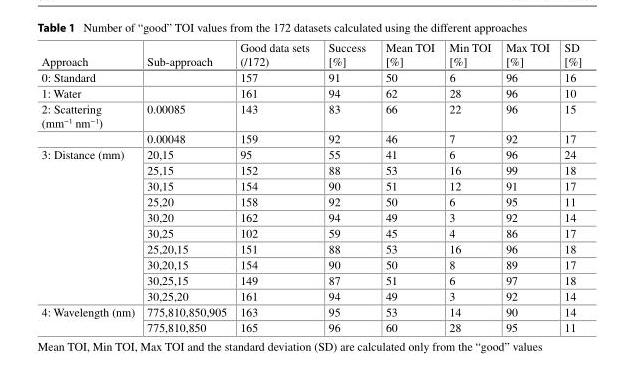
<table><thead><tr><td>Approach</td><td>Sub-approach</td><td>Good data sets (/172)</td><td>Success [%]</td><td>Mean TOI [%]</td><td>Min TOI [%]</td><td>Max TOI [%]</td><td>SD [%]</td></tr></thead><tbody><tr><td>0: Standard</td><td></td><td>157</td><td>91</td><td>50</td><td>6</td><td>96</td><td>16</td></tr><tr><td>1: Water</td><td></td><td>161</td><td>94</td><td>62</td><td>28</td><td>96</td><td>10</td></tr><tr><td rowspan="2">2: Scattering (mm<sup>−1</sup> nm<sup>−1</sup>)</td><td>0.00085</td><td>143</td><td>83</td><td>66</td><td>22</td><td>96</td><td>15</td></tr><tr><td>0.00048</td><td>159</td><td>92</td><td>46</td><td>7</td><td>92</td><td>17</td></tr><tr><td rowspan="10">3: Distance (mm)</td><td>20,15</td><td>95</td><td>55</td><td>41</td><td>6</td><td>96</td><td>24</td></tr><tr><td>25,15</td><td>152</td><td>88</td><td>53</td><td>16</td><td>99</td><td>18</td></tr><tr><td>30,15</td><td>154</td><td>90</td><td>51</td><td>12</td><td>91</td><td>17</td></tr><tr><td>25,20</td><td>158</td><td>92</td><td>50</td><td>6</td><td>95</td><td>11</td></tr><tr><td>30,20</td><td>162</td><td>94</td><td>49</td><td>3</td><td>92</td><td>14</td></tr><tr><td>30,25</td><td>102</td><td>59</td><td>45</td><td>4</td><td>86</td><td>17</td></tr><tr><td>25,20,15</td><td>151</td><td>88</td><td>53</td><td>16</td><td>96</td><td>18</td></tr><tr><td>30,20,15</td><td>154</td><td>90</td><td>50</td><td>8</td><td>89</td><td>17</td></tr><tr><td>30,25,15</td><td>149</td><td>87</td><td>51</td><td>6</td><td>97</td><td>18</td></tr><tr><td>30,25,20</td><td>161</td><td>94</td><td>49</td><td>3</td><td>92</td><td>14</td></tr><tr><td rowspan="2">4: Wavelength (nm)</td><td>775,810,850,905</td><td>163</td><td>95</td><td>53</td><td>14</td><td>90</td><td>14</td></tr><tr><td>775,810,850</td><td>165</td><td>96</td><td>60</td><td>28</td><td>95</td><td>11</td></tr></tbody></table>